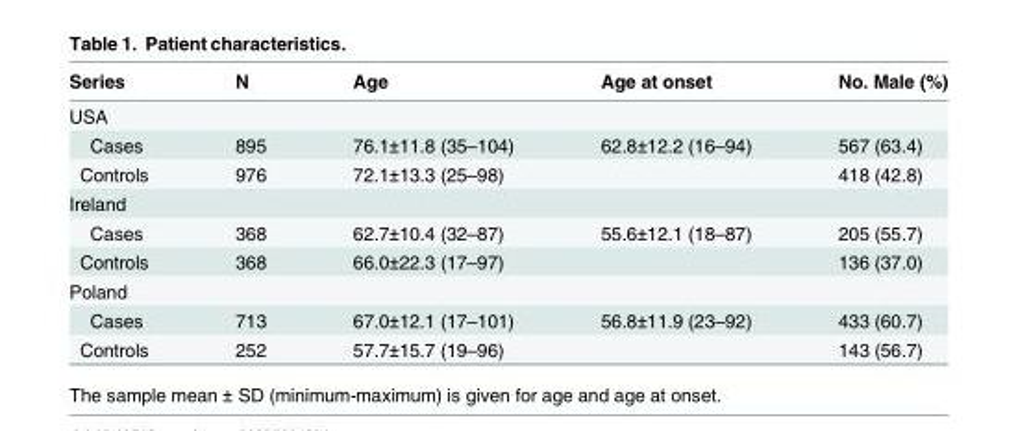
<table><thead><tr><td>Series</td><td>N</td><td>Age</td><td>Age at onset</td><td>No. Male (%)</td></tr></thead><tbody><tr><td colspan="5">USA</td></tr><tr><td>Cases</td><td>895</td><td>76.1±11.8 (35–104)</td><td>62.8±12.2 (16–94)</td><td>567 (63.4)</td></tr><tr><td>Controls</td><td>976</td><td>72.1±13.3 (25–98)</td><td></td><td>418 (42.8)</td></tr><tr><td colspan="5">Ireland</td></tr><tr><td>Cases</td><td>368</td><td>62.7±10.4 (32–87)</td><td>55.6±12.1 (18–87)</td><td>205 (55.7)</td></tr><tr><td>Controls</td><td>368</td><td>66.0±22.3 (17–97)</td><td></td><td>136 (37.0)</td></tr><tr><td colspan="5">Poland</td></tr><tr><td>Cases</td><td>713</td><td>67.0±12.1 (17–101)</td><td>56.8±11.9 (23–92)</td><td>433 (60.7)</td></tr><tr><td>Controls</td><td>252</td><td>57.7±15.7 (19–96)</td><td></td><td>143 (56.7)</td></tr></tbody></table>